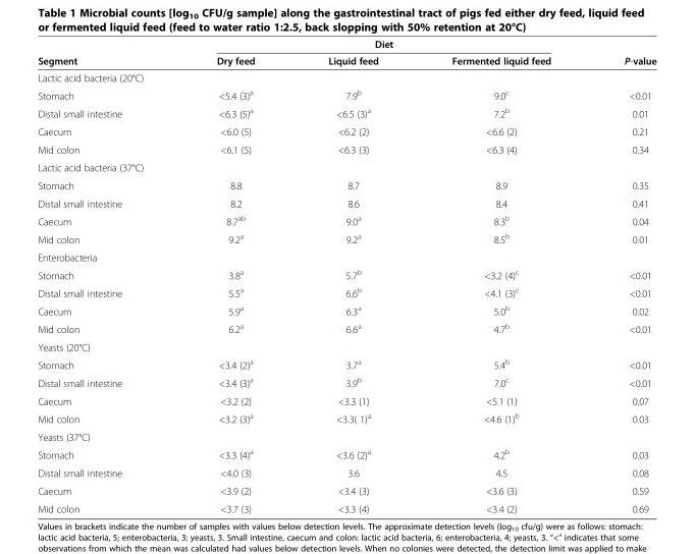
<table><thead><tr><td rowspan="2">Segment</td><td colspan="3">Diet</td><td rowspan="2">P-value</td></tr><tr><td>Dry feed</td><td>Liquid feed</td><td>Fermented liquid feed</td></tr></thead><tbody><tr><td colspan="5">Lactic acid bacteria (20°C)</td></tr><tr><td>Stomach</td><td>&lt;5.4 (3)<sup>a</sup></td><td>7.9<sup>b</sup></td><td>9.0<sup>c</sup></td><td>&lt;0.01</td></tr><tr><td>Distal small intestine</td><td>&lt;6.3 (5)<sup>a</sup></td><td>&lt;6.5 (3)<sup>a</sup></td><td>7.2<sup>b</sup></td><td>0.01</td></tr><tr><td>Caecum</td><td>&lt;6.0 (5)</td><td>&lt;6.2 (2)</td><td>&lt;6.6 (2)</td><td>0.21</td></tr><tr><td>Mid colon</td><td>&lt;6.1 (5)</td><td>&lt;6.3 (3)</td><td>&lt;6.3 (4)</td><td>0.34</td></tr><tr><td colspan="5">Lactic acid bacteria (37°C)</td></tr><tr><td>Stomach</td><td>8.8</td><td>8.7</td><td>8.9</td><td>0.35</td></tr><tr><td>Distal small intestine</td><td>8.2</td><td>8.6</td><td>8.4</td><td>0.41</td></tr><tr><td>Caecum</td><td>8.7<sup>ab</sup></td><td>9.0<sup>a</sup></td><td>8.3<sup>b</sup></td><td>0.04</td></tr><tr><td>Mid colon</td><td>9.2<sup>a</sup></td><td>9.2<sup>a</sup></td><td>8.5<sup>b</sup></td><td>0.01</td></tr><tr><td colspan="5">Enterobacteria</td></tr><tr><td>Stomach</td><td>3.8<sup>a</sup></td><td>5.7<sup>b</sup></td><td>&lt;3.2 (4)<sup>c</sup></td><td>&lt;0.01</td></tr><tr><td>Distal small intestine</td><td>5.5<sup>a</sup></td><td>6.6<sup>b</sup></td><td>&lt;4.1 (3)<sup>c</sup></td><td>&lt;0.01</td></tr><tr><td>Caecum</td><td>5.9<sup>a</sup></td><td>6.3<sup>a</sup></td><td>5.0<sup>b</sup></td><td>0.02</td></tr><tr><td>Mid colon</td><td>6.2<sup>a</sup></td><td>6.6<sup>a</sup></td><td>4.7<sup>b</sup></td><td>&lt;0.01</td></tr><tr><td colspan="5">Yeasts (20°C)</td></tr><tr><td>Stomach</td><td>&lt;3.4 (2)<sup>a</sup></td><td>3.7<sup>a</sup></td><td>5.4<sup>b</sup></td><td>&lt;0.01</td></tr><tr><td>Distal small intestine</td><td>&lt;3.4 (3)<sup>a</sup></td><td>3.9<sup>b</sup></td><td>7.0<sup>c</sup></td><td>&lt;0.01</td></tr><tr><td>Caecum</td><td>&lt;3.2 (2)</td><td>&lt;3.3 (1)</td><td>&lt;5.1 (1)</td><td>0.07</td></tr><tr><td>Mid colon</td><td>&lt;3.2 (3)<sup>a</sup></td><td>&lt;3.3( 1)<sup>a</sup></td><td>&lt;4.6 (1)<sup>b</sup></td><td>0.03</td></tr><tr><td colspan="5">Yeasts (37°C)</td></tr><tr><td>Stomach</td><td>&lt;3.3 (4)<sup>a</sup></td><td>&lt;3.6 (2)<sup>a</sup></td><td>4.2<sup>b</sup></td><td>0.03</td></tr><tr><td>Distal small intestine</td><td>&lt;4.0 (3)</td><td>3.6</td><td>4.5</td><td>0.08</td></tr><tr><td>Caecum</td><td>&lt;3.9 (2)</td><td>&lt;3.4 (3)</td><td>&lt;3.6 (3)</td><td>0.59</td></tr><tr><td>Mid colon</td><td>&lt;3.7 (3)</td><td>&lt;3.3 (4)</td><td>&lt;3.4 (2)</td><td>0.69</td></tr></tbody></table>